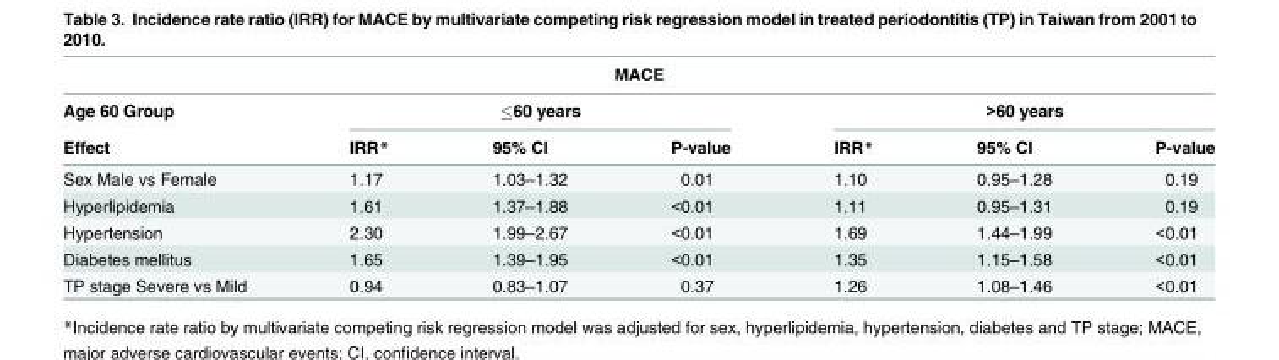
<table><thead><tr><td colspan="7">MACE</td></tr><tr><td rowspan="2">Age 60 Group Effect</td><td colspan="3">≤60 years</td><td colspan="3">&gt;60 years</td></tr><tr><td>IRR*</td><td>95% CI</td><td>P-value</td><td>IRR*</td><td>95% CI</td><td>P-value</td></tr></thead><tbody><tr><td>Sex Male vs Female</td><td>1.17</td><td>1.03–1.32</td><td>0.01</td><td>1.10</td><td>0.95–1.28</td><td>0.19</td></tr><tr><td>Hyperlipidemia</td><td>1.61</td><td>1.37–1.88</td><td>&lt;0.01</td><td>1.11</td><td>0.95–1.31</td><td>0.19</td></tr><tr><td>Hypertension</td><td>2.30</td><td>1.99–2.67</td><td>&lt;0.01</td><td>1.69</td><td>1.44–1.99</td><td>&lt;0.01</td></tr><tr><td>Diabetes mellitus</td><td>1.65</td><td>1.39–1.95</td><td>&lt;0.01</td><td>1.35</td><td>1.15–1.58</td><td>&lt;0.01</td></tr><tr><td>TP stage Severe vs Mild</td><td>0.94</td><td>0.83–1.07</td><td>0.37</td><td>1.26</td><td>1.08–1.46</td><td>&lt;0.01</td></tr></tbody></table>